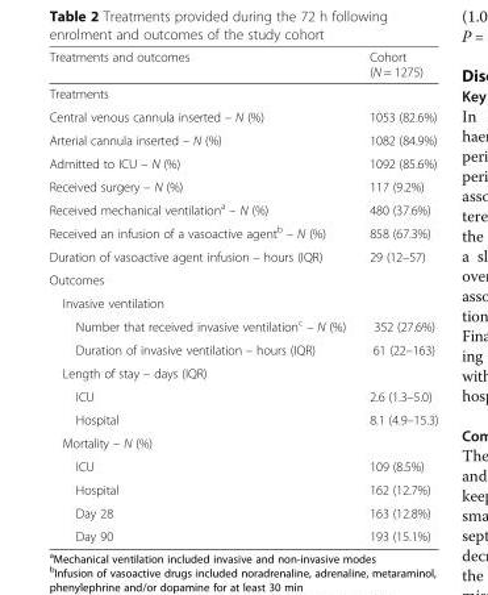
<table><thead><tr><td>Treatments and outcomes</td><td>Cohort (N = 1275)</td></tr></thead><tbody><tr><td colspan="2">Treatments</td></tr><tr><td>Central venous cannula inserted – N (%)</td><td>1053 (82.6%)</td></tr><tr><td>Arterial cannula inserted – N (%)</td><td>1082 (84.9%)</td></tr><tr><td>Admitted to ICU – N (%)</td><td>1092 (85.6%)</td></tr><tr><td>Received surgery – N (%)</td><td>117 (9.2%)</td></tr><tr><td>Received mechanical ventilation<sup>a</sup> – N (%)</td><td>480 (37.6%)</td></tr><tr><td>Received an infusion of a vasoactive agent<sup>b</sup> – N (%)</td><td>858 (67.3%)</td></tr><tr><td>Duration of vasoactive agent infusion – hours (IQR)</td><td>29 (12–57)</td></tr><tr><td colspan="2">Outcomes</td></tr><tr><td colspan="2">Invasive ventilation</td></tr><tr><td>Number that received invasive ventilation<sup>c</sup> – N (%)</td><td>352 (27.6%)</td></tr><tr><td>Duration of invasive ventilation – hours (IQR)</td><td>61 (22–163)</td></tr><tr><td colspan="2">Length of stay – days (IQR)</td></tr><tr><td>ICU</td><td>2.6 (1.3–5.0)</td></tr><tr><td>Hospital</td><td>8.1 (4.9–15.3)</td></tr><tr><td colspan="2">Mortality – N (%)</td></tr><tr><td>ICU</td><td>109 (8.5%)</td></tr><tr><td>Hospital</td><td>162 (12.7%)</td></tr><tr><td>Day 28</td><td>163 (12.8%)</td></tr><tr><td>Day 90</td><td>193 (15.1%)</td></tr></tbody></table>